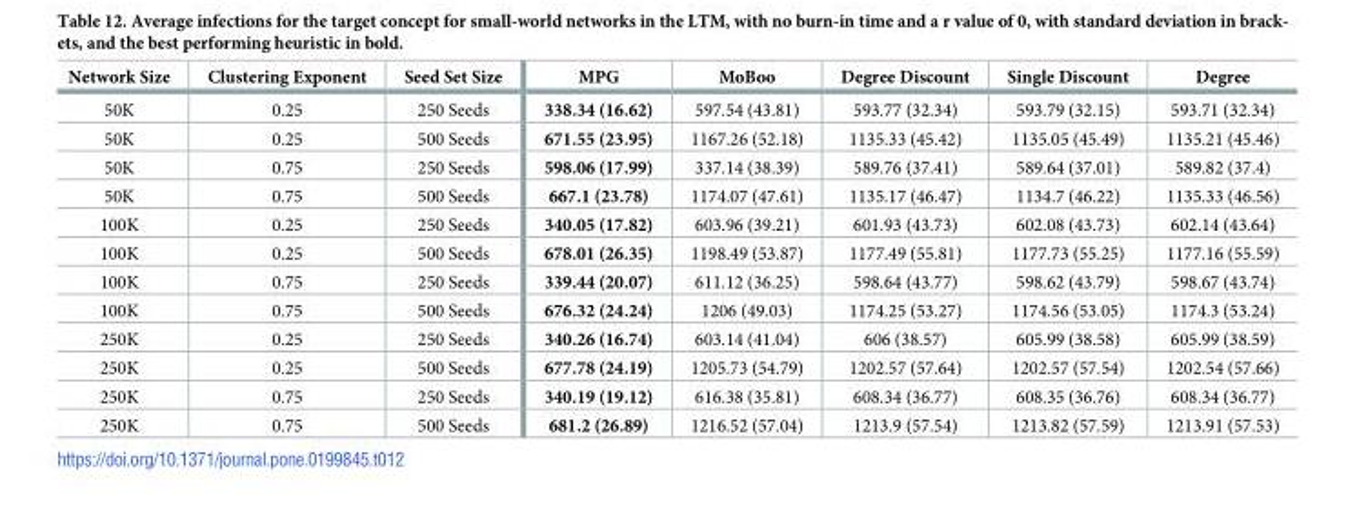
<table><thead><tr><td>Network Size</td><td>Clustering Exponent</td><td>Seed Set Size</td><td>MPG</td><td>MoBoo</td><td>Degree Discount</td><td>Single Discount</td><td>Degree</td></tr></thead><tbody><tr><td>50K</td><td>0.25</td><td>250 Seeds</td><td>338.34 (16.62)</td><td>597.54 (43.81)</td><td>593.77 (32.34)</td><td>593.79 (32.15)</td><td>593.71 (32.34)</td></tr><tr><td>50K</td><td>0.25</td><td>500 Seeds</td><td>671.55 (23.95)</td><td>1167.26 (52.18)</td><td>1135.33 (45.42)</td><td>1135.05 (45.49)</td><td>1135.21 (45.46)</td></tr><tr><td>50K</td><td>0.75</td><td>250 Seeds</td><td>598.06 (17.99)</td><td>337.14 (38.39)</td><td>589.76 (37.41)</td><td>589.64 (37.01)</td><td>589.82 (37.4)</td></tr><tr><td>50K</td><td>0.75</td><td>500 Seeds</td><td>667.1 (23.78)</td><td>1174.07 (47.61)</td><td>1135.17 (46.47)</td><td>1134.7 (46.22)</td><td>1135.33 (46.56)</td></tr><tr><td>100K</td><td>0.25</td><td>250 Seeds</td><td>340.05 (17.82)</td><td>603.96 (39.21)</td><td>601.93 (43.73)</td><td>602.08 (43.73)</td><td>602.14 (43.64)</td></tr><tr><td>100K</td><td>0.25</td><td>500 Seeds</td><td>678.01 (26.35)</td><td>1198.49 (53.87)</td><td>1177.49 (55.81)</td><td>1177.73 (55.25)</td><td>1177.16 (55.59)</td></tr><tr><td>100K</td><td>0.75</td><td>250 Seeds</td><td>339.44 (20.07)</td><td>611.12 (36.25)</td><td>598.64 (43.77)</td><td>598.62 (43.79)</td><td>598.67 (43.74)</td></tr><tr><td>100K</td><td>0.75</td><td>500 Seeds</td><td>676.32 (24.24)</td><td>1206 (49.03)</td><td>1174.25 (53.27)</td><td>1174.56 (53.05)</td><td>1174.3 (53.24)</td></tr><tr><td>250K</td><td>0.25</td><td>250 Seeds</td><td>340.26 (16.74)</td><td>603.14 (41.04)</td><td>606 (38.57)</td><td>605.99 (38.58)</td><td>605.99 (38.59)</td></tr><tr><td>250K</td><td>0.25</td><td>500 Seeds</td><td>677.78 (24.19)</td><td>1205.73 (54.79)</td><td>1202.57 (57.64)</td><td>1202.57 (57.54)</td><td>1202.54 (57.66)</td></tr><tr><td>250K</td><td>0.75</td><td>250 Seeds</td><td>340.19 (19.12)</td><td>616.38 (35.81)</td><td>608.34 (36.77)</td><td>608.35 (36.76)</td><td>608.34 (36.77)</td></tr><tr><td>250K</td><td>0.75</td><td>500 Seeds</td><td>681.2 (26.89)</td><td>1216.52 (57.04)</td><td>1213.9 (57.54)</td><td>1213.82 (57.59)</td><td>1213.91 (57.53)</td></tr></tbody></table>